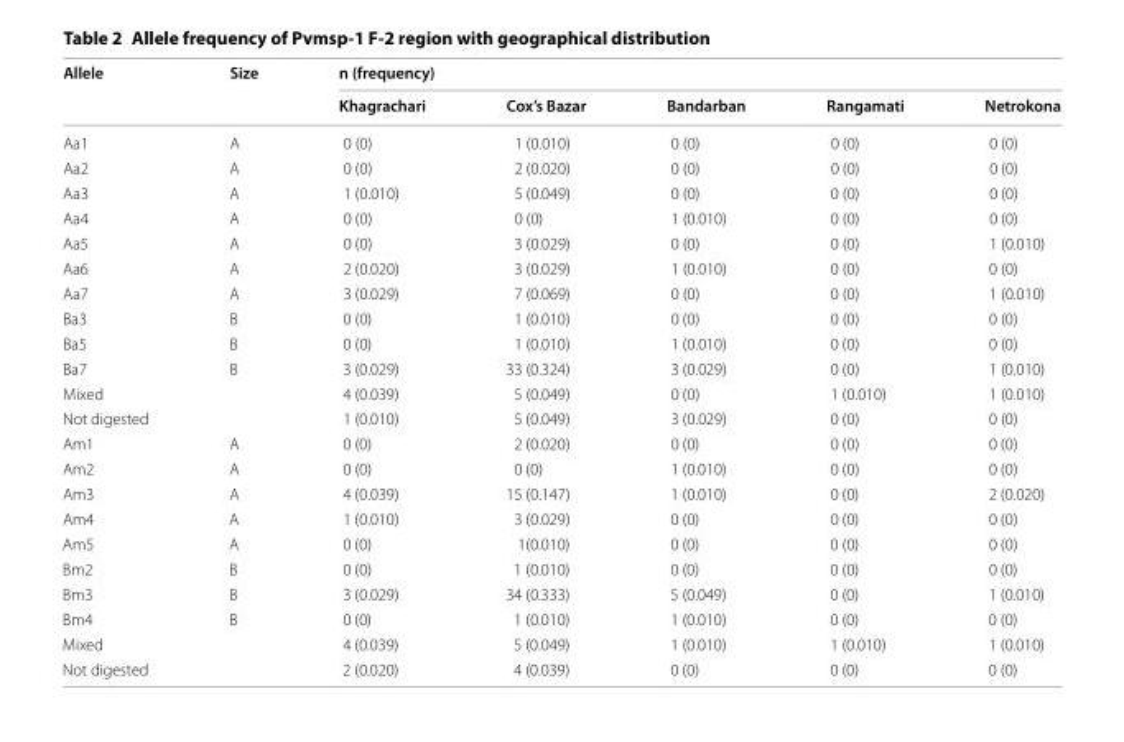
<table><thead><tr><td rowspan="2">Allele</td><td rowspan="2">Size</td><td colspan="5">n (frequency)</td></tr><tr><td>Khagrachari</td><td>Cox’s Bazar</td><td>Bandarban</td><td>Rangamati</td><td>Netrokona</td></tr></thead><tbody><tr><td>Aa1</td><td>A</td><td>0 (0)</td><td>1 (0.010)</td><td>0 (0)</td><td>0 (0)</td><td>0 (0)</td></tr><tr><td>Aa2</td><td>A</td><td>0 (0)</td><td>2 (0.020)</td><td>0 (0)</td><td>0 (0)</td><td>0 (0)</td></tr><tr><td>Aa3</td><td>A</td><td>1 (0.010)</td><td>5 (0.049)</td><td>0 (0)</td><td>0 (0)</td><td>0 (0)</td></tr><tr><td>Aa4</td><td>A</td><td>0 (0)</td><td>0 (0)</td><td>1 (0.010)</td><td>0 (0)</td><td>0 (0)</td></tr><tr><td>Aa5</td><td>A</td><td>0 (0)</td><td>3 (0.029)</td><td>0 (0)</td><td>0 (0)</td><td>1 (0.010)</td></tr><tr><td>Aa6</td><td>A</td><td>2 (0.020)</td><td>3 (0.029)</td><td>1 (0.010)</td><td>0 (0)</td><td>0 (0)</td></tr><tr><td>Aa7</td><td>A</td><td>3 (0.029)</td><td>7 (0.069)</td><td>0 (0)</td><td>0 (0)</td><td>1 (0.010)</td></tr><tr><td>Ba3</td><td>B</td><td>0 (0)</td><td>1 (0.010)</td><td>0 (0)</td><td>0 (0)</td><td>0 (0)</td></tr><tr><td>Ba5</td><td>B</td><td>0 (0)</td><td>1 (0.010)</td><td>1 (0.010)</td><td>0 (0)</td><td>0 (0)</td></tr><tr><td>Ba7</td><td>B</td><td>3 (0.029)</td><td>33 (0.324)</td><td>3 (0.029)</td><td>0 (0)</td><td>1 (0.010)</td></tr><tr><td>Mixed</td><td></td><td>4 (0.039)</td><td>5 (0.049)</td><td>0 (0)</td><td>1 (0.010)</td><td>1 (0.010)</td></tr><tr><td>Not digested</td><td></td><td>1 (0.010)</td><td>5 (0.049)</td><td>3 (0.029)</td><td>0 (0)</td><td>0 (0)</td></tr><tr><td>Am1</td><td>A</td><td>0 (0)</td><td>2 (0.020)</td><td>0 (0)</td><td>0 (0)</td><td>0 (0)</td></tr><tr><td>Am2</td><td>A</td><td>0 (0)</td><td>0 (0)</td><td>1 (0.010)</td><td>0 (0)</td><td>0 (0)</td></tr><tr><td>Am3</td><td>A</td><td>4 (0.039)</td><td>15 (0.147)</td><td>1 (0.010)</td><td>0 (0)</td><td>2 (0.020)</td></tr><tr><td>Am4</td><td>A</td><td>1 (0.010)</td><td>3 (0.029)</td><td>0 (0)</td><td>0 (0)</td><td>0 (0)</td></tr><tr><td>Am5</td><td>A</td><td>0 (0)</td><td>1(0.010)</td><td>0 (0)</td><td>0 (0)</td><td>0 (0)</td></tr><tr><td>Bm2</td><td>B</td><td>0 (0)</td><td>1 (0.010)</td><td>0 (0)</td><td>0 (0)</td><td>0 (0)</td></tr><tr><td>Bm3</td><td>B</td><td>3 (0.029)</td><td>34 (0.333)</td><td>5 (0.049)</td><td>0 (0)</td><td>1 (0.010)</td></tr><tr><td>Bm4</td><td>B</td><td>0 (0)</td><td>1 (0.010)</td><td>1 (0.010)</td><td>0 (0)</td><td>0 (0)</td></tr><tr><td>Mixed</td><td></td><td>4 (0.039)</td><td>5 (0.049)</td><td>1 (0.010)</td><td>1 (0.010)</td><td>1 (0.010)</td></tr><tr><td>Not digested</td><td></td><td>2 (0.020)</td><td>4 (0.039)</td><td>0 (0)</td><td>0 (0)</td><td>0 (0)</td></tr></tbody></table>